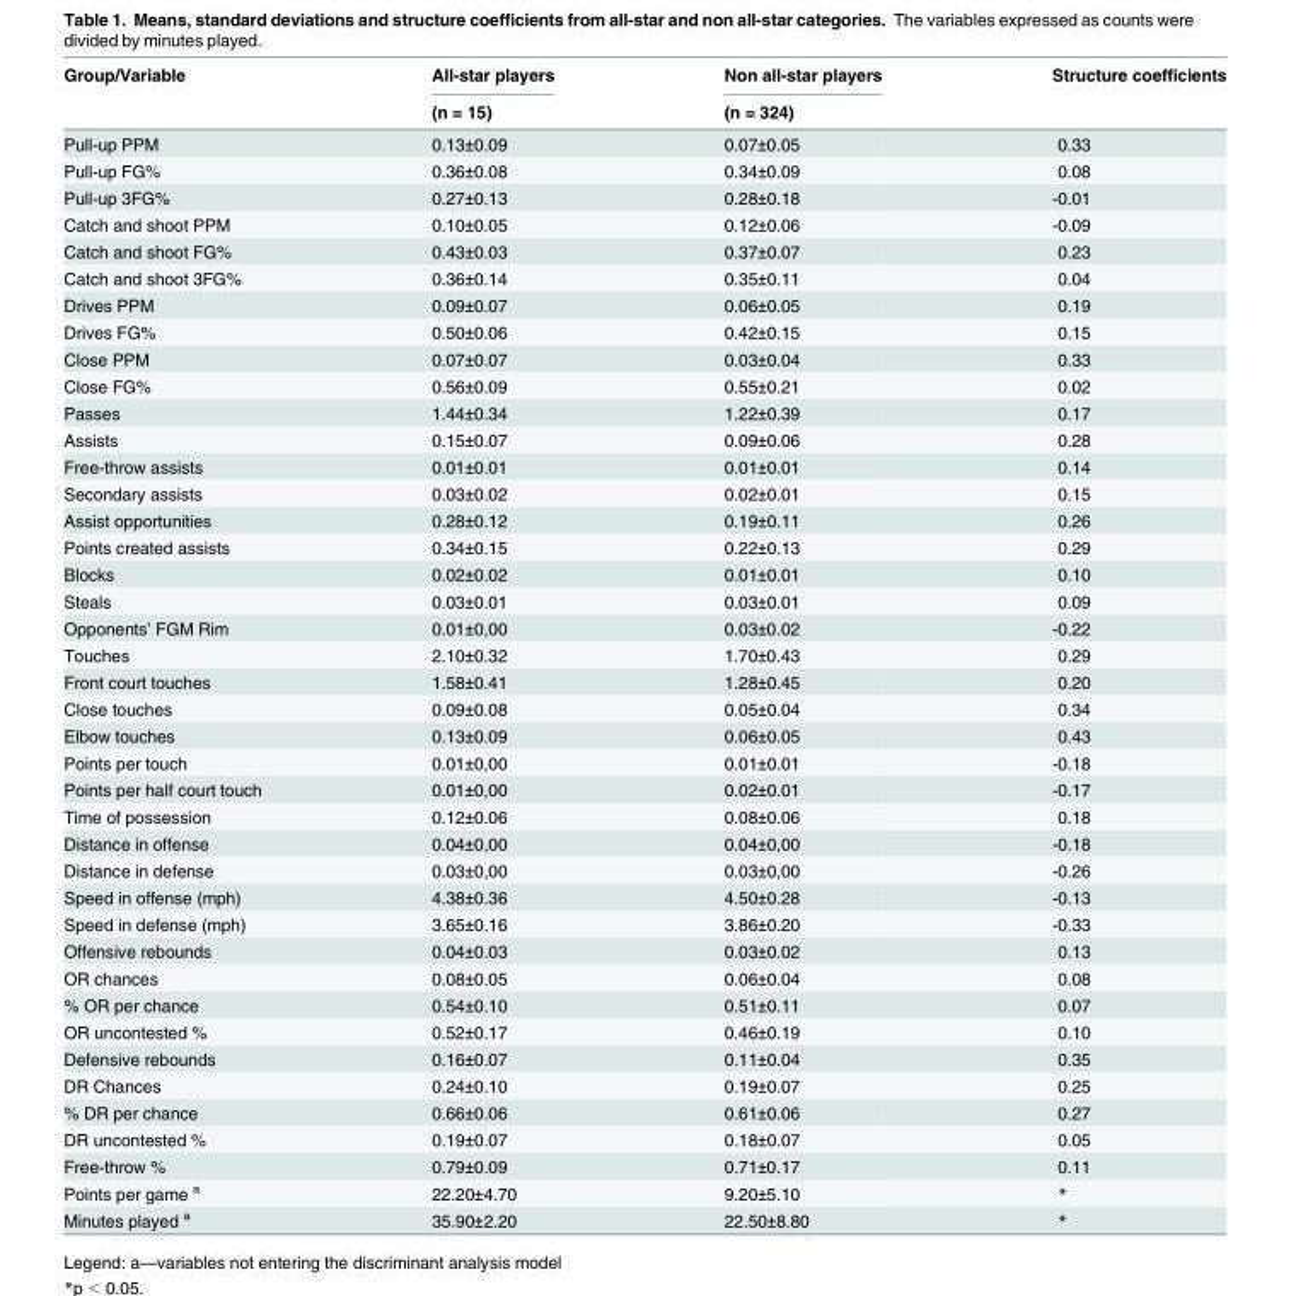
<table><thead><tr><td rowspan="2">Group/Variable</td><td rowspan="2">All-star players (n = 15)</td><td rowspan="2">Non all-star players (n = 324)</td><td rowspan="2">Structure coefficients</td></tr><tr></tr></thead><tbody><tr><td>Pull-up PPM</td><td>0.13±0.09</td><td>0.07±0.05</td><td>0.33</td></tr><tr><td>Pull-up FG%</td><td>0.36±0.08</td><td>0.34±0.09</td><td>0.08</td></tr><tr><td>Pull-up 3FG%</td><td>0.27±0.13</td><td>0.28±0.18</td><td>-0.01</td></tr><tr><td>Catch and shoot PPM</td><td>0.10±0.05</td><td>0.12±0.06</td><td>-0.09</td></tr><tr><td>Catch and shoot FG%</td><td>0.43±0.03</td><td>0.37±0.07</td><td>0.23</td></tr><tr><td>Catch and shoot 3FG%</td><td>0.36±0.14</td><td>0.35±0.11</td><td>0.04</td></tr><tr><td>Drives PPM</td><td>0.09±0.07</td><td>0.06±0.05</td><td>0.19</td></tr><tr><td>Drives FG%</td><td>0.50±0.06</td><td>0.42±0.15</td><td>0.15</td></tr><tr><td>Close PPM</td><td>0.07±0.07</td><td>0.03±0.04</td><td>0.33</td></tr><tr><td>Close FG%</td><td>0.56±0.09</td><td>0.55±0.21</td><td>0.02</td></tr><tr><td>Passes</td><td>1.44±0.34</td><td>1.22±0.39</td><td>0.17</td></tr><tr><td>Assists</td><td>0.15±0.07</td><td>0.09±0.06</td><td>0.28</td></tr><tr><td>Free-throw assists</td><td>0.01±0.01</td><td>0.01±0.01</td><td>0.14</td></tr><tr><td>Secondary assists</td><td>0.03±0.02</td><td>0.02±0.01</td><td>0.15</td></tr><tr><td>Assist opportunities</td><td>0.28±0.12</td><td>0.19±0.11</td><td>0.26</td></tr><tr><td>Points created assists</td><td>0.34±0.15</td><td>0.22±0.13</td><td>0.29</td></tr><tr><td>Blocks</td><td>0.02±0.02</td><td>0.01±0.01</td><td>0.10</td></tr><tr><td>Steals</td><td>0.03±0.01</td><td>0.03±0.01</td><td>0.09</td></tr><tr><td>Opponents’ FGM Rim</td><td>0.01±0,00</td><td>0.03±0.02</td><td>-0.22</td></tr><tr><td>Touches</td><td>2.10±0.32</td><td>1.70±0.43</td><td>0.29</td></tr><tr><td>Front court touches</td><td>1.58±0.41</td><td>1.28±0.45</td><td>0.20</td></tr><tr><td>Close touches</td><td>0.09±0.08</td><td>0.05±0.04</td><td>0.34</td></tr><tr><td>Elbow touches</td><td>0.13±0.09</td><td>0.06±0.05</td><td>0.43</td></tr><tr><td>Points per touch</td><td>0.01±0,00</td><td>0.01±0.01</td><td>-0.18</td></tr><tr><td>Points per half court touch</td><td>0.01±0,00</td><td>0.02±0.01</td><td>-0.17</td></tr><tr><td>Time of possession</td><td>0.12±0.06</td><td>0.08±0.06</td><td>0.18</td></tr><tr><td>Distance in offense</td><td>0.04±0,00</td><td>0.04±0,00</td><td>-0.18</td></tr><tr><td>Distance in defense</td><td>0.03±0,00</td><td>0.03±0,00</td><td>-0.26</td></tr><tr><td>Speed in offense (mph)</td><td>4.38±0.36</td><td>4.50±0.28</td><td>-0.13</td></tr><tr><td>Speed in defense (mph)</td><td>3.65±0.16</td><td>3.86±0.20</td><td>-0.33</td></tr><tr><td>Offensive rebounds</td><td>0.04±0.03</td><td>0.03±0.02</td><td>0.13</td></tr><tr><td>OR chances</td><td>0.08±0.05</td><td>0.06±0.04</td><td>0.08</td></tr><tr><td>% OR per chance</td><td>0.54±0.10</td><td>0.51±0.11</td><td>0.07</td></tr><tr><td>OR uncontested %</td><td>0.52±0.17</td><td>0.46±0.19</td><td>0.10</td></tr><tr><td>Defensive rebounds</td><td>0.16±0.07</td><td>0.11±0.04</td><td>0.35</td></tr><tr><td>DR Chances</td><td>0.24±0.10</td><td>0.19±0.07</td><td>0.25</td></tr><tr><td>% DR per chance</td><td>0.66±0.06</td><td>0.61±0.06</td><td>0.27</td></tr><tr><td>DR uncontested %</td><td>0.19±0.07</td><td>0.18±0.07</td><td>0.05</td></tr><tr><td>Free-throw %</td><td>0.79±0.09</td><td>0.71±0.17</td><td>0.11</td></tr><tr><td>Points per game <sup>a</sup></td><td>22.20±4.70</td><td>9.20±5.10</td><td>*</td></tr><tr><td>Minutes played <sup>a</sup></td><td>35.90±2.20</td><td>22.50±8.80</td><td>*</td></tr></tbody></table>